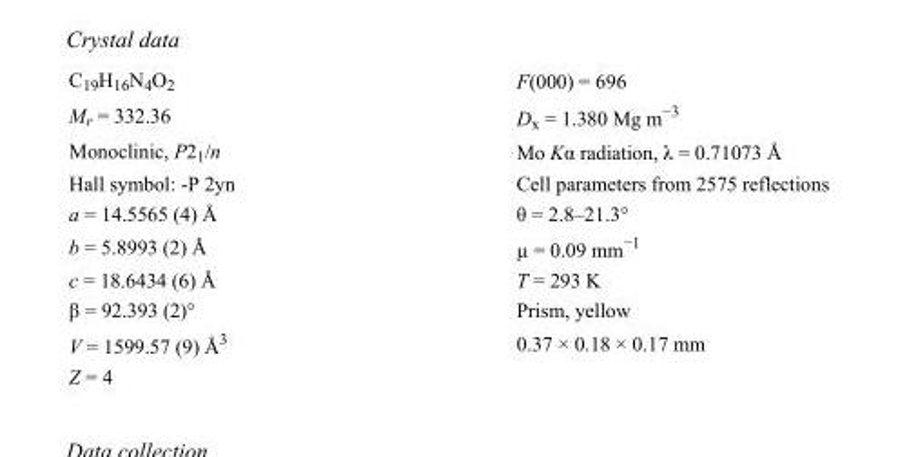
<table><tbody><tr><td>C<sub>19</sub>H<sub>16</sub>N<sub>4</sub>O<sub>2</sub></td><td>F(000) = 696</td></tr><tr><td>M<sub>r</sub> = 332.36</td><td>D<sub>x</sub> = 1.380 Mg m<sup>−3</sup></td></tr><tr><td>Monoclinic, P2<sub>1</sub>/n</td><td>Mo Kα radiation, λ = 0.71073 Å</td></tr><tr><td>Hall symbol: -P 2yn</td><td>Cell parameters from 2575 reflections</td></tr><tr><td>a = 14.5565 (4) Å</td><td>θ = 2.8–21.3°</td></tr><tr><td>b = 5.8993 (2) Å</td><td>µ = 0.09 mm<sup>−1</sup></td></tr><tr><td>c = 18.6434 (6) Å</td><td>T = 293 K</td></tr><tr><td>β = 92.393 (2)°</td><td>Prism, yellow</td></tr><tr><td>V = 1599.57 (9) Å<sup>3</sup></td><td>0.37 × 0.18 × 0.17 mm</td></tr><tr><td>Z = 4</td><td></td></tr></tbody></table>